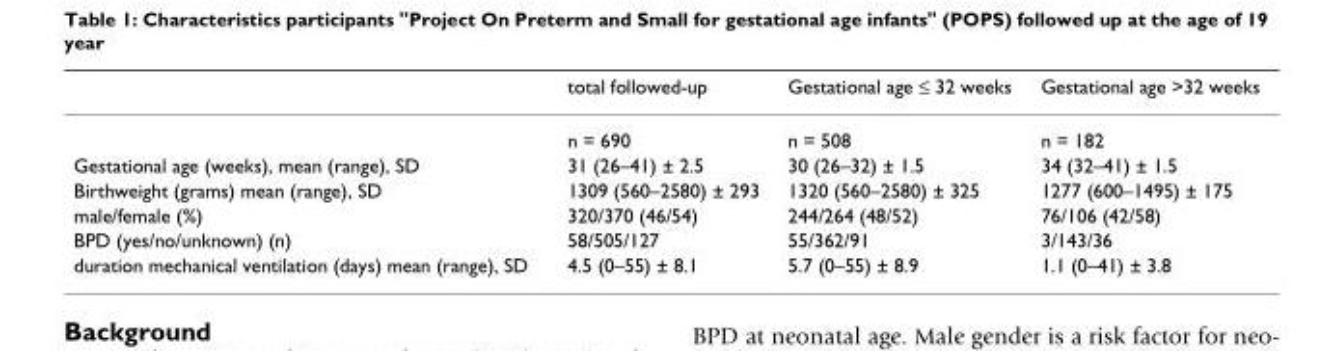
<table><thead><tr><td></td><td>total followed-up</td><td>Gestational age ≤ 32 weeks</td><td>Gestational age &gt;32 weeks</td></tr></thead><tbody><tr><td></td><td>n = 690</td><td>n = 508</td><td>n = 182</td></tr><tr><td>Gestational age (weeks), mean (range), SD</td><td>31 (26–41) ± 2.5</td><td>30 (26–32) ± 1.5</td><td>34 (32–41) ± 1.5</td></tr><tr><td>Birthweight (grams) mean (range), SD</td><td>1309 (560–2580) ± 293</td><td>1320 (560–2580) ± 325</td><td>1277 (600–1495) ± 175</td></tr><tr><td>male/female (%)</td><td>320/370 (46/54)</td><td>244/264 (48/52)</td><td>76/106 (42/58)</td></tr><tr><td>BPD (yes/no/unknown) (n)</td><td>58/505/127</td><td>55/362/91</td><td>3/143/36</td></tr><tr><td>duration mechanical ventilation (days) mean (range), SD</td><td>4.5 (0–55) ± 8.1</td><td>5.7 (0–55) ± 8.9</td><td>1.1 (0–41) ± 3.8</td></tr></tbody></table>